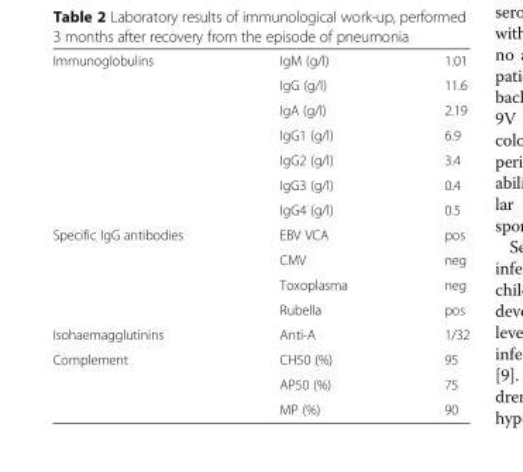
<table><tbody><tr><td rowspan="7">Immunoglobulins</td><td>IgM (g/l)</td><td>1.01</td></tr><tr><td>IgG (g/l)</td><td>11.6</td></tr><tr><td>IgA (g/l)</td><td>2.19</td></tr><tr><td>IgG1 (g/l)</td><td>6.9</td></tr><tr><td>IgG2 (g/l)</td><td>3.4</td></tr><tr><td>IgG3 (g/l)</td><td>0.4</td></tr><tr><td>IgG4 (g/l)</td><td>0.5</td></tr><tr><td rowspan="4">Specific IgG antibodies</td><td>EBV VCA</td><td>pos</td></tr><tr><td>CMV</td><td>neg</td></tr><tr><td>Toxoplasma</td><td>neg</td></tr><tr><td>Rubella</td><td>pos</td></tr><tr><td>Isohaemagglutinins</td><td>Anti-A</td><td>1/32</td></tr><tr><td rowspan="3">Complement</td><td>CH50 (%)</td><td>95</td></tr><tr><td>AP50 (%)</td><td>75</td></tr><tr><td>MP (%)</td><td>90</td></tr></tbody></table>